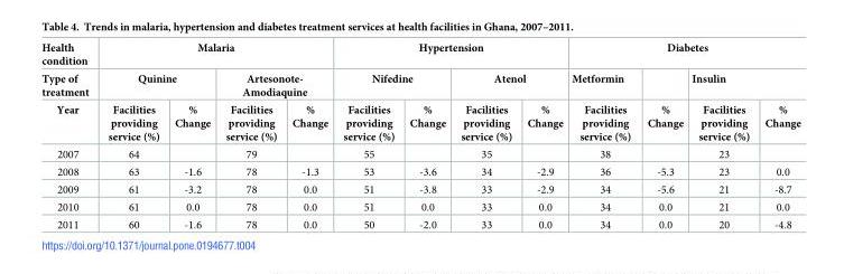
<table><thead><tr><td rowspan="3">Health condition Type of treatment Year</td><td colspan="4">Malaria</td><td colspan="4">Hypertension</td><td colspan="4">Diabetes</td></tr><tr><td colspan="2">Quinine</td><td colspan="2">Artesonote- Amodiaquine</td><td colspan="2">Nifedine</td><td colspan="2">Atenol</td><td rowspan="2">Metformin Facilities providing service (%)</td><td rowspan="2">% Change</td><td colspan="2">Insulin</td></tr><tr><td>Facilities providing service (%)</td><td>% Change</td><td>Facilities providing service (%)</td><td>% Change</td><td>Facilities providing service (%)</td><td>% Change</td><td>Facilities providing service (%)</td><td>% Change</td><td>Facilities providing service (%)</td><td>% Change</td></tr></thead><tbody><tr><td>2007</td><td>64</td><td></td><td>79</td><td></td><td>55</td><td></td><td>35</td><td></td><td>38</td><td></td><td>23</td><td></td></tr><tr><td>2008</td><td>63</td><td>-1.6</td><td>78</td><td>-1.3</td><td>53</td><td>-3.6</td><td>34</td><td>-2.9</td><td>36</td><td>-5.3</td><td>23</td><td>0.0</td></tr><tr><td>2009</td><td>61</td><td>-3.2</td><td>78</td><td>0.0</td><td>51</td><td>-3.8</td><td>33</td><td>-2.9</td><td>34</td><td>-5.6</td><td>21</td><td>-8.7</td></tr><tr><td>2010</td><td>61</td><td>0.0</td><td>78</td><td>0.0</td><td>51</td><td>0.0</td><td>33</td><td>0.0</td><td>34</td><td>0.0</td><td>21</td><td>0.0</td></tr><tr><td>2011</td><td>60</td><td>-1.6</td><td>78</td><td>0.0</td><td>50</td><td>-2.0</td><td>33</td><td>0.0</td><td>34</td><td>0.0</td><td>20</td><td>-4.8</td></tr></tbody></table>